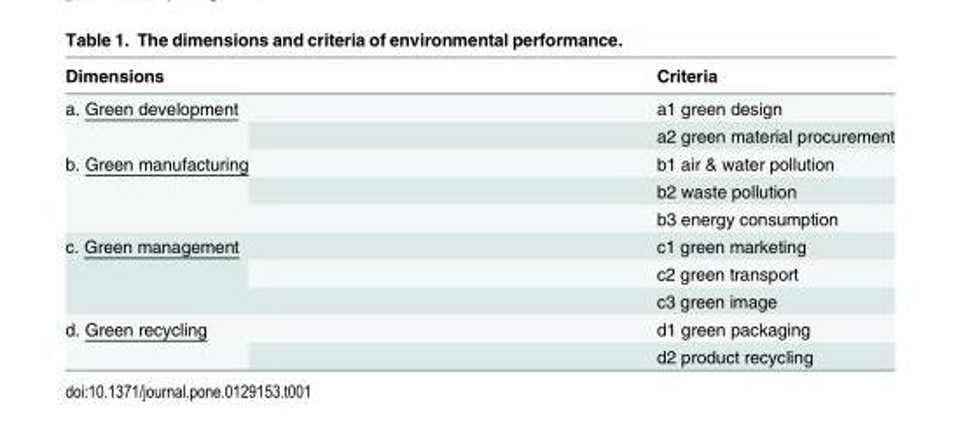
<table><thead><tr><td>Dimensions</td><td>Criteria</td></tr></thead><tbody><tr><td rowspan="2">a. Green development</td><td>a1 green design</td></tr><tr><td>a2 green material procurement</td></tr><tr><td rowspan="3">b. Green manufacturing</td><td>b1 air &amp; water pollution</td></tr><tr><td>b2 waste pollution</td></tr><tr><td>b3 energy consumption</td></tr><tr><td rowspan="3">c. Green management</td><td>c1 green marketing</td></tr><tr><td>c2 green transport</td></tr><tr><td>c3 green image</td></tr><tr><td rowspan="2">d. Green recycling</td><td>d1 green packaging</td></tr><tr><td>d2 product recycling</td></tr></tbody></table>